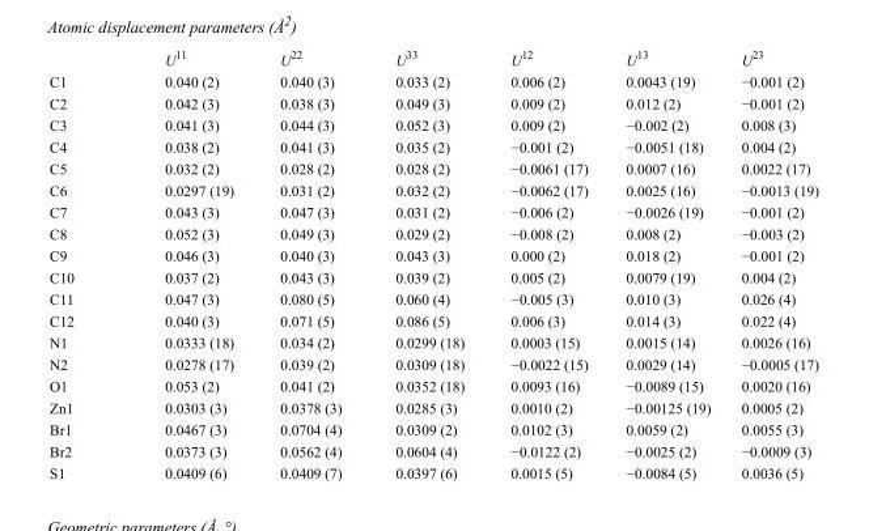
<table><thead><tr><td></td><td>U<sup>11</sup></td><td>U<sup>22</sup></td><td>U<sup>33</sup></td><td>U<sup>12</sup></td><td>U<sup>13</sup></td><td>U<sup>23</sup></td></tr></thead><tbody><tr><td>C1</td><td>0.040 (2)</td><td>0.040 (3)</td><td>0.033 (2)</td><td>0.006 (2)</td><td>0.0043 (19)</td><td>−0.001 (2)</td></tr><tr><td>C2</td><td>0.042 (3)</td><td>0.038 (3)</td><td>0.049 (3)</td><td>0.009 (2)</td><td>0.012 (2)</td><td>−0.001 (2)</td></tr><tr><td>C3</td><td>0.041 (3)</td><td>0.044 (3)</td><td>0.052 (3)</td><td>0.009 (2)</td><td>−0.002 (2)</td><td>0.008 (3)</td></tr><tr><td>C4</td><td>0.038 (2)</td><td>0.041 (3)</td><td>0.035 (2)</td><td>−0.001 (2)</td><td>−0.0051 (18)</td><td>0.004 (2)</td></tr><tr><td>C5</td><td>0.032 (2)</td><td>0.028 (2)</td><td>0.028 (2)</td><td>−0.0061 (17)</td><td>0.0007 (16)</td><td>0.0022 (17)</td></tr><tr><td>C6</td><td>0.0297 (19)</td><td>0.031 (2)</td><td>0.032 (2)</td><td>−0.0062 (17)</td><td>0.0025 (16)</td><td>−0.0013 (19)</td></tr><tr><td>C7</td><td>0.043 (3)</td><td>0.047 (3)</td><td>0.031 (2)</td><td>−0.006 (2)</td><td>−0.0026 (19)</td><td>−0.001 (2)</td></tr><tr><td>C8</td><td>0.052 (3)</td><td>0.049 (3)</td><td>0.029 (2)</td><td>−0.008 (2)</td><td>0.008 (2)</td><td>−0.003 (2)</td></tr><tr><td>C9</td><td>0.046 (3)</td><td>0.040 (3)</td><td>0.043 (3)</td><td>0.000 (2)</td><td>0.018 (2)</td><td>−0.001 (2)</td></tr><tr><td>C10</td><td>0.037 (2)</td><td>0.043 (3)</td><td>0.039 (2)</td><td>0.005 (2)</td><td>0.0079 (19)</td><td>0.004 (2)</td></tr><tr><td>C11</td><td>0.047 (3)</td><td>0.080 (5)</td><td>0.060 (4)</td><td>−0.005 (3)</td><td>0.010 (3)</td><td>0.026 (4)</td></tr><tr><td>C12</td><td>0.040 (3)</td><td>0.071 (5)</td><td>0.086 (5)</td><td>0.006 (3)</td><td>0.014 (3)</td><td>0.022 (4)</td></tr><tr><td>N1</td><td>0.0333 (18)</td><td>0.034 (2)</td><td>0.0299 (18)</td><td>0.0003 (15)</td><td>0.0015 (14)</td><td>0.0026 (16)</td></tr><tr><td>N2</td><td>0.0278 (17)</td><td>0.039 (2)</td><td>0.0309 (18)</td><td>−0.0022 (15)</td><td>0.0029 (14)</td><td>−0.0005 (17)</td></tr><tr><td>O1</td><td>0.053 (2)</td><td>0.041 (2)</td><td>0.0352 (18)</td><td>0.0093 (16)</td><td>−0.0089 (15)</td><td>0.0020 (16)</td></tr><tr><td>Zn1</td><td>0.0303 (3)</td><td>0.0378 (3)</td><td>0.0285 (3)</td><td>0.0010 (2)</td><td>−0.00125 (19)</td><td>0.0005 (2)</td></tr><tr><td>Br1</td><td>0.0467 (3)</td><td>0.0704 (4)</td><td>0.0309 (2)</td><td>0.0102 (3)</td><td>0.0059 (2)</td><td>0.0055 (3)</td></tr><tr><td>Br2</td><td>0.0373 (3)</td><td>0.0562 (4)</td><td>0.0604 (4)</td><td>−0.0122 (2)</td><td>−0.0025 (2)</td><td>−0.0009 (3)</td></tr><tr><td>S1</td><td>0.0409 (6)</td><td>0.0409 (7)</td><td>0.0397 (6)</td><td>0.0015 (5)</td><td>−0.0084 (5)</td><td>0.0036 (5)</td></tr></tbody></table>